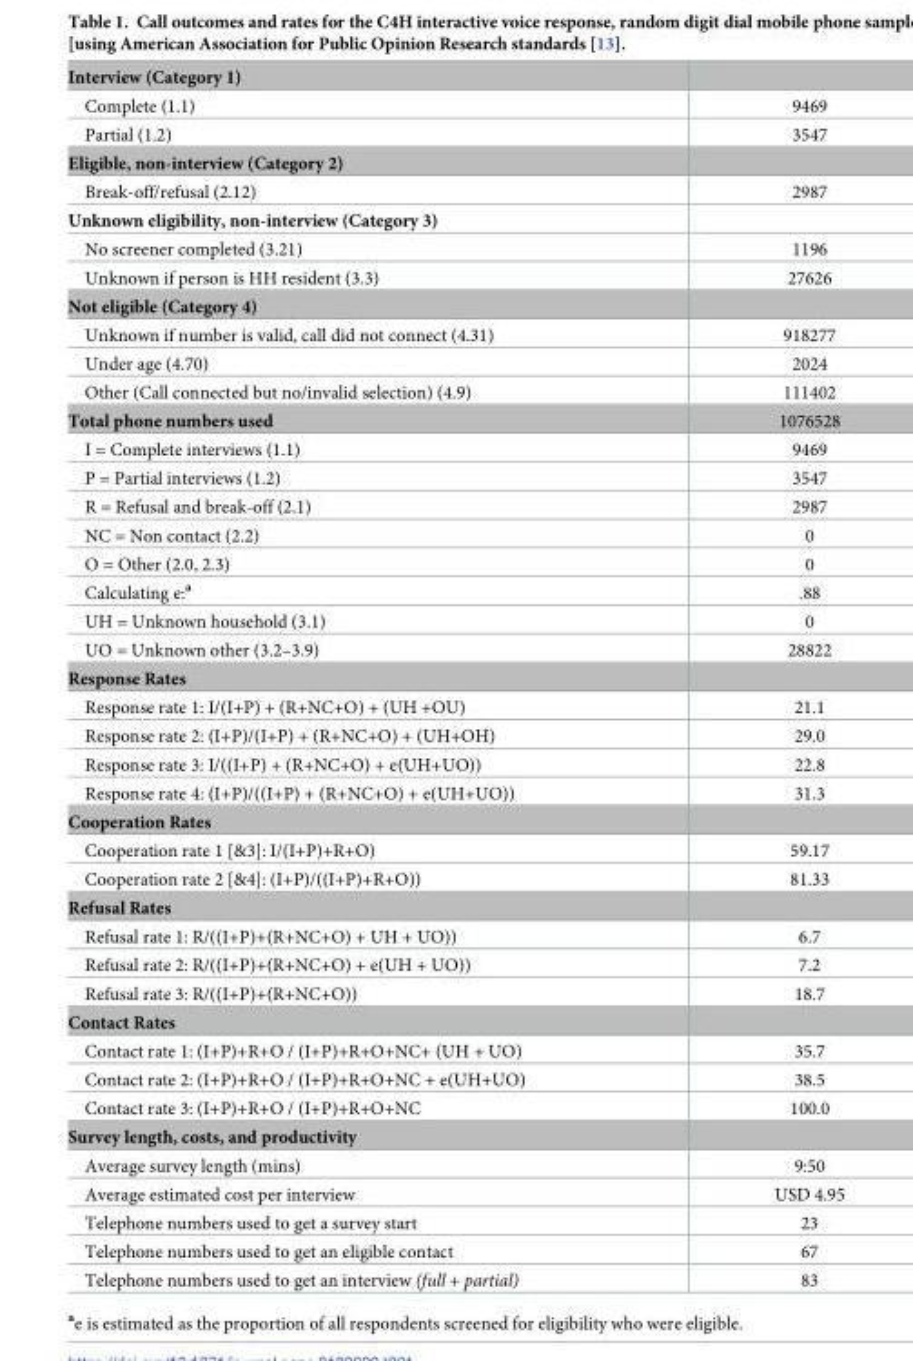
<table><tbody><tr><td colspan="2">Interview (Category 1)</td></tr><tr><td>Complete (1.1)</td><td>9469</td></tr><tr><td>Partial (1.2)</td><td>3547</td></tr><tr><td colspan="2">Eligible, non-interview (Category 2)</td></tr><tr><td>Break-off/refusal (2.12)</td><td>2987</td></tr><tr><td colspan="2">Unknown eligibility, non-interview (Category 3)</td></tr><tr><td>No screener completed (3.21)</td><td>1196</td></tr><tr><td>Unknown if person is HH resident (3.3)</td><td>27626</td></tr><tr><td colspan="2">Not eligible (Category 4)</td></tr><tr><td>Unknown if number is valid, call did not connect (4.31)</td><td>918277</td></tr><tr><td>Under age (4.70)</td><td>2024</td></tr><tr><td>Other (Call connected but no/invalid selection) (4.9)</td><td>111402</td></tr><tr><td>Total phone numbers used</td><td>1076528</td></tr><tr><td>I = Complete interviews (1.1)</td><td>9469</td></tr><tr><td>P = Partial interviews (1.2)</td><td>3547</td></tr><tr><td>R = Refusal and break-off (2.1)</td><td>2987</td></tr><tr><td>NC = Non contact (2.2)</td><td>0</td></tr><tr><td>O = Other (2.0, 2.3)</td><td>0</td></tr><tr><td>Calculating e:<sup>a</sup></td><td>.88</td></tr><tr><td>UH = Unknown household (3.1)</td><td>0</td></tr><tr><td>UO = Unknown other (3.2–3.9)</td><td>28822</td></tr><tr><td colspan="2">Response Rates</td></tr><tr><td>Response rate 1: I/(I+P) + (R+NC+O) + (UH +OU)</td><td>21.1</td></tr><tr><td>Response rate 2: (I+P)/(I+P) + (R+NC+O) + (UH+OH)</td><td>29.0</td></tr><tr><td>Response rate 3: I/((I+P) + (R+NC+O) + e(UH+UO))</td><td>22.8</td></tr><tr><td>Response rate 4: (I+P)/((I+P) + (R+NC+O) + e(UH+UO))</td><td>31.3</td></tr><tr><td colspan="2">Cooperation Rates</td></tr><tr><td>Cooperation rate 1 [&amp;3]: I/(I+P)+R+O)</td><td>59.17</td></tr><tr><td>Cooperation rate 2 [&amp;4]: (I+P)/((I+P)+R+O))</td><td>81.33</td></tr><tr><td colspan="2">Refusal Rates</td></tr><tr><td>Refusal rate 1: R/((I+P)+(R+NC+O) + UH + UO))</td><td>6.7</td></tr><tr><td>Refusal rate 2: R/((I+P)+(R+NC+O) + e(UH + UO))</td><td>7.2</td></tr><tr><td>Refusal rate 3: R/((I+P)+(R+NC+O))</td><td>18.7</td></tr><tr><td colspan="2">Contact Rates</td></tr><tr><td>Contact rate 1: (I+P)+R+O / (I+P)+R+O+NC+ (UH + UO)</td><td>35.7</td></tr><tr><td>Contact rate 2: (I+P)+R+O / (I+P)+R+O+NC + e(UH+UO)</td><td>38.5</td></tr><tr><td>Contact rate 3: (I+P)+R+O / (I+P)+R+O+NC</td><td>100.0</td></tr><tr><td colspan="2">Survey length, costs, and productivity</td></tr><tr><td>Average survey length (mins)</td><td>9:50</td></tr><tr><td>Average estimated cost per interview</td><td>USD 4.95</td></tr><tr><td>Telephone numbers used to get a survey start</td><td>23</td></tr><tr><td>Telephone numbers used to get an eligible contact</td><td>67</td></tr><tr><td>Telephone numbers used to get an interview (full + partial)</td><td>83</td></tr></tbody></table>